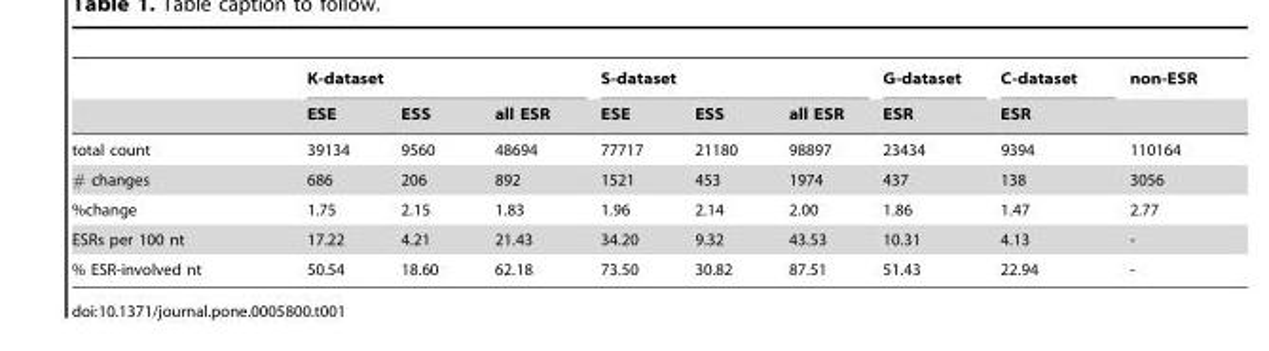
<table><thead><tr><td rowspan="2"></td><td colspan="3">K-dataset</td><td colspan="3">S-dataset</td><td rowspan="2">G-dataset ESR</td><td rowspan="2">C-dataset ESR</td><td rowspan="2">non-ESR</td></tr><tr><td>ESE</td><td>ESS</td><td>all ESR</td><td>ESE</td><td>ESS</td><td>all ESR</td></tr></thead><tbody><tr><td>total count</td><td>39134</td><td>9560</td><td>48694</td><td>77717</td><td>21180</td><td>98897</td><td>23434</td><td>9394</td><td>110164</td></tr><tr><td># changes</td><td>686</td><td>206</td><td>892</td><td>1521</td><td>453</td><td>1974</td><td>437</td><td>138</td><td>3056</td></tr><tr><td>%change</td><td>1.75</td><td>2.15</td><td>1.83</td><td>1.96</td><td>2.14</td><td>2.00</td><td>1.86</td><td>1.47</td><td>2.77</td></tr><tr><td>ESRs per 100 nt</td><td>17.22</td><td>4.21</td><td>21.43</td><td>34.20</td><td>9.32</td><td>43.53</td><td>10.31</td><td>4.13</td><td>-</td></tr><tr><td>% ESR-involved nt</td><td>50.54</td><td>18.60</td><td>62.18</td><td>73.50</td><td>30.82</td><td>87.51</td><td>51.43</td><td>22.94</td><td>-</td></tr></tbody></table>